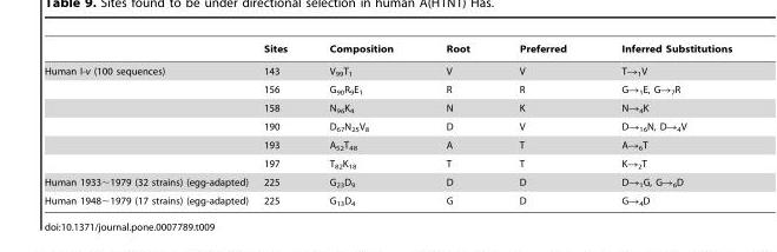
<table><thead><tr><td></td><td>Sites</td><td>Composition</td><td>Root</td><td>Preferred</td><td>Inferred Substitutions</td></tr></thead><tbody><tr><td rowspan="6">Human I-v (100 sequences)</td><td>143</td><td>V<sub>99</sub>T<sub>1</sub></td><td>V</td><td>V</td><td>T→<sub>1</sub>V</td></tr><tr><td>156</td><td>G<sub>90</sub>R<sub>9</sub>E<sub>1</sub></td><td>R</td><td>R</td><td>G→<sub>1</sub>E, G→<sub>7</sub>R</td></tr><tr><td>158</td><td>N<sub>96</sub>K<sub>4</sub></td><td>N</td><td>K</td><td>N→<sub>4</sub>K</td></tr><tr><td>190</td><td>D<sub>67</sub>N<sub>25</sub>V<sub>8</sub></td><td>D</td><td>V</td><td>D→<sub>16</sub>N, D→<sub>4</sub>V</td></tr><tr><td>193</td><td>A<sub>52</sub>T<sub>48</sub></td><td>A</td><td>T</td><td>A→<sub>6</sub>T</td></tr><tr><td>197</td><td>T<sub>82</sub>K<sub>18</sub></td><td>T</td><td>T</td><td>K→<sub>2</sub>T</td></tr><tr><td>Human 1933∼1979 (32 strains) (egg-adapted)</td><td>225</td><td>G<sub>23</sub>D<sub>9</sub></td><td>D</td><td>D</td><td>D→<sub>1</sub>G, G→<sub>6</sub>D</td></tr><tr><td>Human 1948∼1979 (17 strains) (egg-adapted)</td><td>225</td><td>G<sub>13</sub>D<sub>4</sub></td><td>G</td><td>D</td><td>G→<sub>4</sub>D</td></tr></tbody></table>